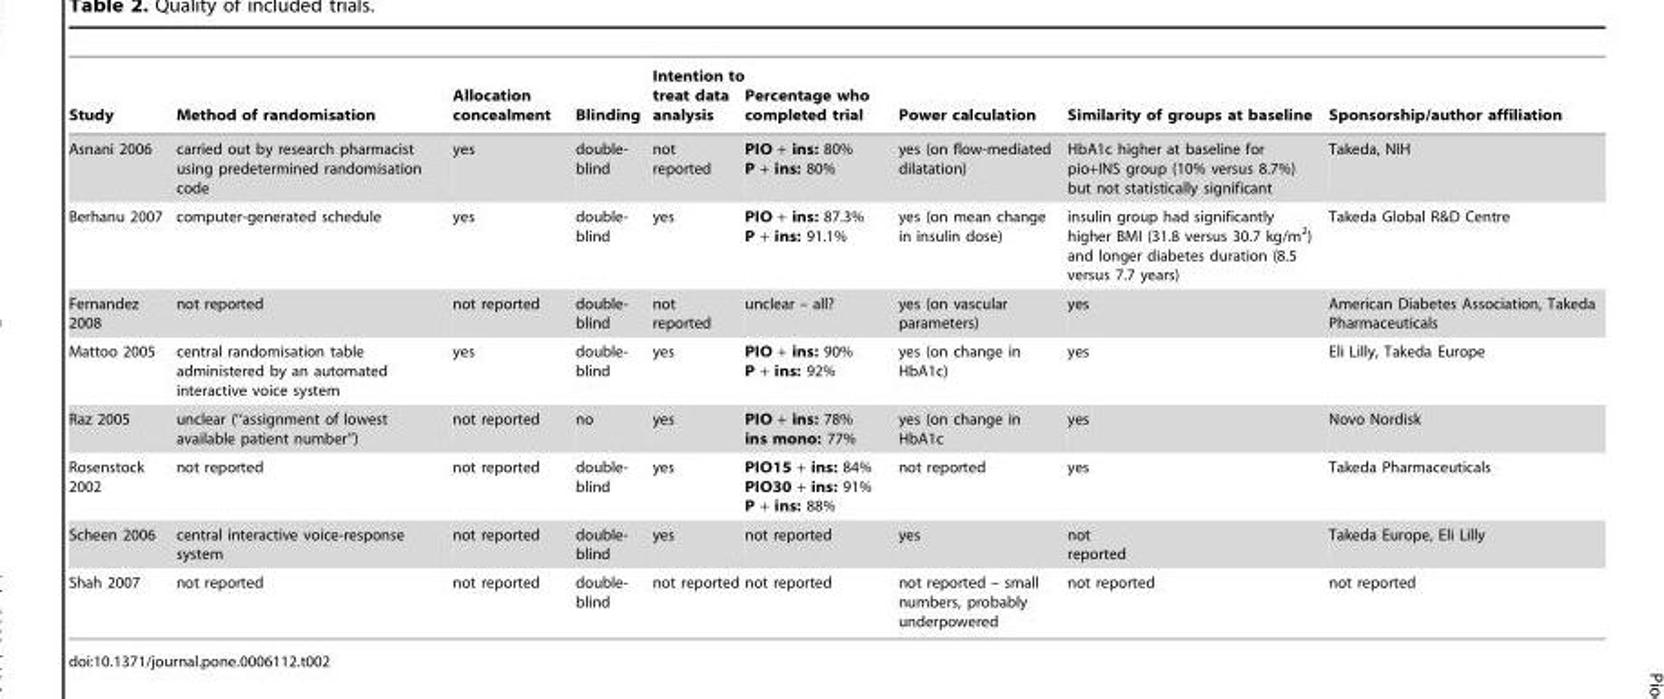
<table><thead><tr><td>Study</td><td>Method of randomisation</td><td>Allocation concealment</td><td>Blinding</td><td>Intention to treat data analysis</td><td>Percentage who completed trial</td><td>Power calculation</td><td>Similarity of groups at baseline</td><td>Sponsorship/author affiliation</td></tr></thead><tbody><tr><td>Asnani 2006</td><td>carried out by research pharmacist using predetermined randomisation code</td><td>yes</td><td>double- blind</td><td>not reported</td><td>PIO + ins: 80% P + ins: 80%</td><td>yes (on flow-mediated dilatation)</td><td>HbA1c higher at baseline for pio+INS group (10% versus 8.7%) but not statistically significant</td><td>Takeda, NIH</td></tr><tr><td>Berhanu 2007</td><td>computer-generated schedule</td><td>yes</td><td>double- blind</td><td>yes</td><td>PIO + ins: 87.3% P + ins: 91.1%</td><td>yes (on mean change in insulin dose)</td><td>insulin group had significantly higher BMI (31.8 versus 30.7 kg/m<sup>2</sup>) and longer diabetes duration (8.5 versus 7.7 years)</td><td>Takeda Global R&amp;D Centre</td></tr><tr><td>Fernandez 2008</td><td>not reported</td><td>not reported</td><td>double- blind</td><td>not reported</td><td>unclear – all?</td><td>yes (on vascular parameters)</td><td>yes</td><td>American Diabetes Association, Takeda Pharmaceuticals</td></tr><tr><td>Mattoo 2005</td><td>central randomisation table administered by an automated interactive voice system</td><td>yes</td><td>double- blind</td><td>yes</td><td>PIO + ins: 90% P + ins: 92%</td><td>yes (on change in HbA1c)</td><td>yes</td><td>Eli Lilly, Takeda Europe</td></tr><tr><td>Raz 2005</td><td>unclear (‘‘assignment of lowest available patient number’’)</td><td>not reported</td><td>no</td><td>yes</td><td>PIO + ins: 78% ins mono: 77%</td><td>yes (on change in HbA1c</td><td>yes</td><td>Novo Nordisk</td></tr><tr><td>Rosenstock 2002</td><td>not reported</td><td>not reported</td><td>double- blind</td><td>yes</td><td>PIO15 + ins: 84% PIO30 + ins: 91% P + ins: 88%</td><td>not reported</td><td>yes</td><td>Takeda Pharmaceuticals</td></tr><tr><td>Scheen 2006</td><td>central interactive voice-response system</td><td>not reported</td><td>double- blind</td><td>yes</td><td>not reported</td><td>yes</td><td>not reported</td><td>Takeda Europe, Eli Lilly</td></tr><tr><td>Shah 2007</td><td>not reported</td><td>not reported</td><td>double- blind</td><td>not reported</td><td>not reported</td><td>not reported – small numbers, probably underpowered</td><td>not reported</td><td>not reported</td></tr></tbody></table>